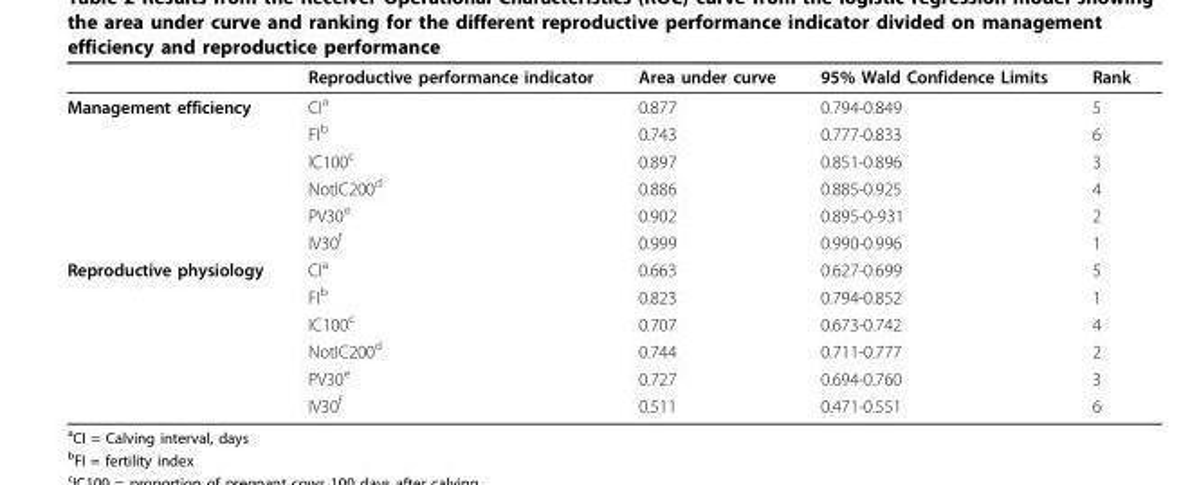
<table><thead><tr><td></td><td>Reproductive performance indicator</td><td>Area under curve</td><td>95% Wald Confidence Limits</td><td>Rank</td></tr></thead><tbody><tr><td rowspan="6">Management efficiency</td><td>CI<sup>a</sup></td><td>0.877</td><td>0.794-0.849</td><td>5</td></tr><tr><td>FI<sup>b</sup></td><td>0.743</td><td>0.777-0.833</td><td>6</td></tr><tr><td>IC100<sup>c</sup></td><td>0.897</td><td>0.851-0.896</td><td>3</td></tr><tr><td>NotIC200<sup>d</sup></td><td>0.886</td><td>0.885-0.925</td><td>4</td></tr><tr><td>PV30<sup>e</sup></td><td>0.902</td><td>0.895-0-931</td><td>2</td></tr><tr><td>IV30<sup>f</sup></td><td>0.999</td><td>0.990-0.996</td><td>1</td></tr><tr><td rowspan="6">Reproductive physiology</td><td>CI<sup>a</sup></td><td>0.663</td><td>0.627-0.699</td><td>5</td></tr><tr><td>FI<sup>b</sup></td><td>0.823</td><td>0.794-0.852</td><td>1</td></tr><tr><td>IC100<sup>c</sup></td><td>0.707</td><td>0.673-0.742</td><td>4</td></tr><tr><td>NotIC200<sup>d</sup></td><td>0.744</td><td>0.711-0.777</td><td>2</td></tr><tr><td>PV30<sup>e</sup></td><td>0.727</td><td>0.694-0.760</td><td>3</td></tr><tr><td>IV30<sup>f</sup></td><td>0.511</td><td>0.471-0.551</td><td>6</td></tr></tbody></table>